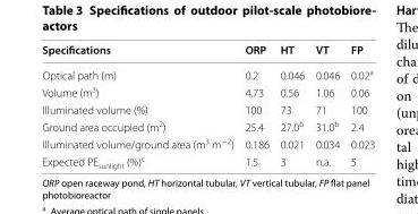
<table><thead><tr><td>Specifications</td><td>ORP</td><td>HT</td><td>VT</td><td>FP</td></tr></thead><tbody><tr><td>Optical path (m)</td><td>0.2</td><td>0.046</td><td>0.046</td><td>0.02<sup>a</sup></td></tr><tr><td>Volume (m<sup>3</sup>)</td><td>4.73</td><td>0.56</td><td>1.06</td><td>0.06</td></tr><tr><td>Illuminated volume (%)</td><td>100</td><td>73</td><td>71</td><td>100</td></tr><tr><td>Ground area occupied (m<sup>2</sup>)</td><td>25.4</td><td>27.0<sup>b</sup></td><td>31.0<sup>b</sup></td><td>2.4</td></tr><tr><td>Illuminated volume/ground area (m<sup>3</sup> m<sup>−2</sup>)</td><td>0.186</td><td>0.021</td><td>0.034</td><td>0.023</td></tr><tr><td>Expected PE<sub>sunlight</sub> (%)<sup>c</sup></td><td>1.5</td><td>3</td><td>n.a.</td><td>5</td></tr></tbody></table>